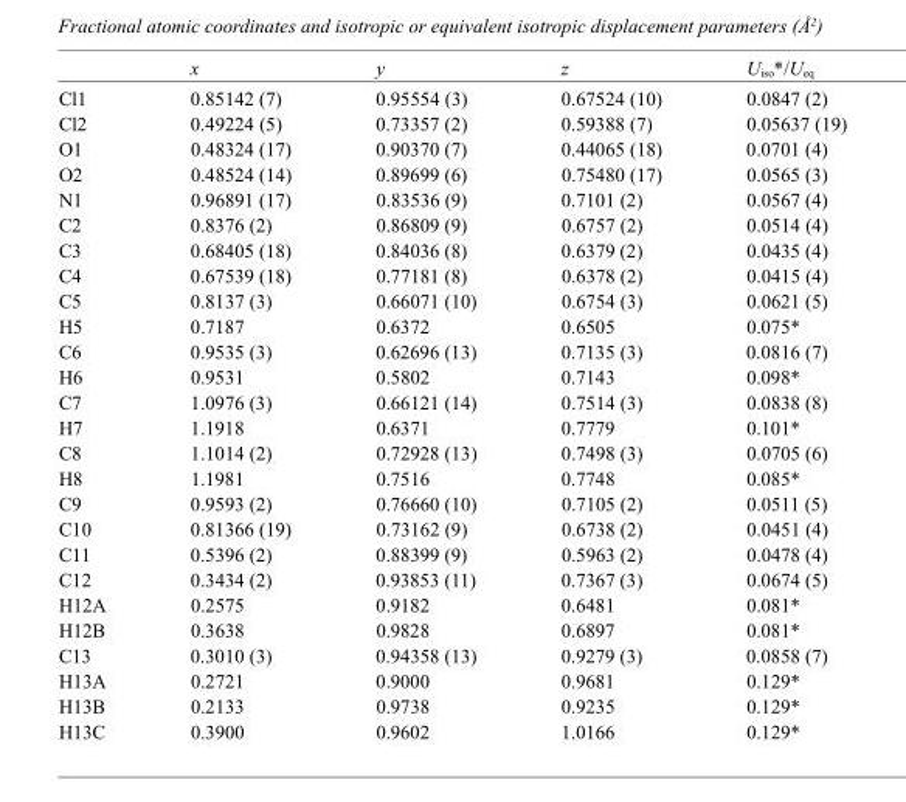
<table><thead><tr><td></td><td>x</td><td>y</td><td>z</td><td>U<sub>iso</sub>*/U<sub>eq</sub></td></tr></thead><tbody><tr><td>Cl1</td><td>0.85142 (7)</td><td>0.95554 (3)</td><td>0.67524 (10)</td><td>0.0847 (2)</td></tr><tr><td>Cl2</td><td>0.49224 (5)</td><td>0.73357 (2)</td><td>0.59388 (7)</td><td>0.05637 (19)</td></tr><tr><td>O1</td><td>0.48324 (17)</td><td>0.90370 (7)</td><td>0.44065 (18)</td><td>0.0701 (4)</td></tr><tr><td>O2</td><td>0.48524 (14)</td><td>0.89699 (6)</td><td>0.75480 (17)</td><td>0.0565 (3)</td></tr><tr><td>N1</td><td>0.96891 (17)</td><td>0.83536 (9)</td><td>0.7101 (2)</td><td>0.0567 (4)</td></tr><tr><td>C2</td><td>0.8376 (2)</td><td>0.86809 (9)</td><td>0.6757 (2)</td><td>0.0514 (4)</td></tr><tr><td>C3</td><td>0.68405 (18)</td><td>0.84036 (8)</td><td>0.6379 (2)</td><td>0.0435 (4)</td></tr><tr><td>C4</td><td>0.67539 (18)</td><td>0.77181 (8)</td><td>0.6378 (2)</td><td>0.0415 (4)</td></tr><tr><td>C5</td><td>0.8137 (3)</td><td>0.66071 (10)</td><td>0.6754 (3)</td><td>0.0621 (5)</td></tr><tr><td>H5</td><td>0.7187</td><td>0.6372</td><td>0.6505</td><td>0.075*</td></tr><tr><td>C6</td><td>0.9535 (3)</td><td>0.62696 (13)</td><td>0.7135 (3)</td><td>0.0816 (7)</td></tr><tr><td>H6</td><td>0.9531</td><td>0.5802</td><td>0.7143</td><td>0.098*</td></tr><tr><td>C7</td><td>1.0976 (3)</td><td>0.66121 (14)</td><td>0.7514 (3)</td><td>0.0838 (8)</td></tr><tr><td>H7</td><td>1.1918</td><td>0.6371</td><td>0.7779</td><td>0.101*</td></tr><tr><td>C8</td><td>1.1014 (2)</td><td>0.72928 (13)</td><td>0.7498 (3)</td><td>0.0705 (6)</td></tr><tr><td>H8</td><td>1.1981</td><td>0.7516</td><td>0.7748</td><td>0.085*</td></tr><tr><td>C9</td><td>0.9593 (2)</td><td>0.76660 (10)</td><td>0.7105 (2)</td><td>0.0511 (5)</td></tr><tr><td>C10</td><td>0.81366 (19)</td><td>0.73162 (9)</td><td>0.6738 (2)</td><td>0.0451 (4)</td></tr><tr><td>C11</td><td>0.5396 (2)</td><td>0.88399 (9)</td><td>0.5963 (2)</td><td>0.0478 (4)</td></tr><tr><td>C12</td><td>0.3434 (2)</td><td>0.93853 (11)</td><td>0.7367 (3)</td><td>0.0674 (5)</td></tr><tr><td>H12A</td><td>0.2575</td><td>0.9182</td><td>0.6481</td><td>0.081*</td></tr><tr><td>H12B</td><td>0.3638</td><td>0.9828</td><td>0.6897</td><td>0.081*</td></tr><tr><td>C13</td><td>0.3010 (3)</td><td>0.94358 (13)</td><td>0.9279 (3)</td><td>0.0858 (7)</td></tr><tr><td>H13A</td><td>0.2721</td><td>0.9000</td><td>0.9681</td><td>0.129*</td></tr><tr><td>H13B</td><td>0.2133</td><td>0.9738</td><td>0.9235</td><td>0.129*</td></tr><tr><td>H13C</td><td>0.3900</td><td>0.9602</td><td>1.0166</td><td>0.129*</td></tr></tbody></table>